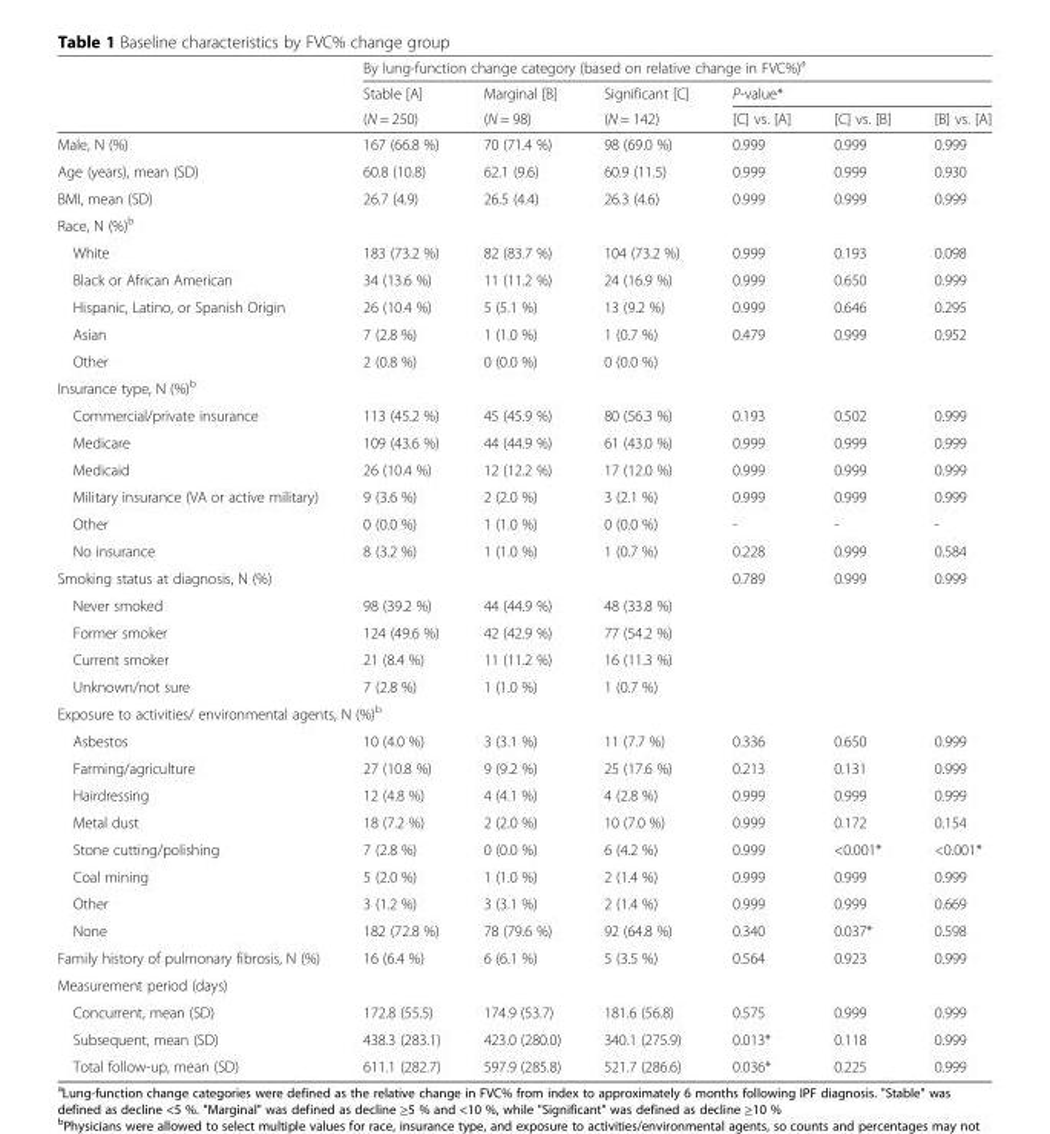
<table><thead><tr><td rowspan="3"></td><td colspan="6">By lung-function change category (based on relative change in FVC%)<sup>a</sup></td></tr><tr><td rowspan="2">Stable [A] (N = 250)</td><td rowspan="2">Marginal [B] (N = 98)</td><td rowspan="2">Significant [C] (N = 142)</td><td colspan="3">P-value*</td></tr><tr><td>[C] vs. [A]</td><td>[C] vs. [B]</td><td>[B] vs. [A]</td></tr></thead><tbody><tr><td>Male, N (%)</td><td>167 (66.8 %)</td><td>70 (71.4 %)</td><td>98 (69.0 %)</td><td>0.999</td><td>0.999</td><td>0.999</td></tr><tr><td>Age (years), mean (SD)</td><td>60.8 (10.8)</td><td>62.1 (9.6)</td><td>60.9 (11.5)</td><td>0.999</td><td>0.999</td><td>0.930</td></tr><tr><td>BMI, mean (SD)</td><td>26.7 (4.9)</td><td>26.5 (4.4)</td><td>26.3 (4.6)</td><td>0.999</td><td>0.999</td><td>0.999</td></tr><tr><td colspan="7">Race, N (%)<sup>b</sup></td></tr><tr><td>White</td><td>183 (73.2 %)</td><td>82 (83.7 %)</td><td>104 (73.2 %)</td><td>0.999</td><td>0.193</td><td>0.098</td></tr><tr><td>Black or African American</td><td>34 (13.6 %)</td><td>11 (11.2 %)</td><td>24 (16.9 %)</td><td>0.999</td><td>0.650</td><td>0.999</td></tr><tr><td>Hispanic, Latino, or Spanish Origin</td><td>26 (10.4 %)</td><td>5 (5.1 %)</td><td>13 (9.2 %)</td><td>0.999</td><td>0.646</td><td>0.295</td></tr><tr><td>Asian</td><td>7 (2.8 %)</td><td>1 (1.0 %)</td><td>1 (0.7 %)</td><td>0.479</td><td>0.999</td><td>0.952</td></tr><tr><td>Other</td><td>2 (0.8 %)</td><td>0 (0.0 %)</td><td>0 (0.0 %)</td><td></td><td></td><td></td></tr><tr><td colspan="7">Insurance type, N (%)<sup>b</sup></td></tr><tr><td>Commercial/private insurance</td><td>113 (45.2 %)</td><td>45 (45.9 %)</td><td>80 (56.3 %)</td><td>0.193</td><td>0.502</td><td>0.999</td></tr><tr><td>Medicare</td><td>109 (43.6 %)</td><td>44 (44.9 %)</td><td>61 (43.0 %)</td><td>0.999</td><td>0.999</td><td>0.999</td></tr><tr><td>Medicaid</td><td>26 (10.4 %)</td><td>12 (12.2 %)</td><td>17 (12.0 %)</td><td>0.999</td><td>0.999</td><td>0.999</td></tr><tr><td>Military insurance (VA or active military)</td><td>9 (3.6 %)</td><td>2 (2.0 %)</td><td>3 (2.1 %)</td><td>0.999</td><td>0.999</td><td>0.999</td></tr><tr><td>Other</td><td>0 (0.0 %)</td><td>1 (1.0 %)</td><td>0 (0.0 %)</td><td>-</td><td>-</td><td>-</td></tr><tr><td>No insurance</td><td>8 (3.2 %)</td><td>1 (1.0 %)</td><td>1 (0.7 %)</td><td>0.228</td><td>0.999</td><td>0.584</td></tr><tr><td>Smoking status at diagnosis, N (%)</td><td></td><td></td><td></td><td>0.789</td><td>0.999</td><td>0.999</td></tr><tr><td>Never smoked</td><td>98 (39.2 %)</td><td>44 (44.9 %)</td><td>48 (33.8 %)</td><td></td><td></td><td></td></tr><tr><td>Former smoker</td><td>124 (49.6 %)</td><td>42 (42.9 %)</td><td>77 (54.2 %)</td><td></td><td></td><td></td></tr><tr><td>Current smoker</td><td>21 (8.4 %)</td><td>11 (11.2 %)</td><td>16 (11.3 %)</td><td></td><td></td><td></td></tr><tr><td>Unknown/not sure</td><td>7 (2.8 %)</td><td>1 (1.0 %)</td><td>1 (0.7 %)</td><td></td><td></td><td></td></tr><tr><td colspan="7">Exposure to activities/ environmental agents, N (%)<sup>b</sup></td></tr><tr><td>Asbestos</td><td>10 (4.0 %)</td><td>3 (3.1 %)</td><td>11 (7.7 %)</td><td>0.336</td><td>0.650</td><td>0.999</td></tr><tr><td>Farming/agriculture</td><td>27 (10.8 %)</td><td>9 (9.2 %)</td><td>25 (17.6 %)</td><td>0.213</td><td>0.131</td><td>0.999</td></tr><tr><td>Hairdressing</td><td>12 (4.8 %)</td><td>4 (4.1 %)</td><td>4 (2.8 %)</td><td>0.999</td><td>0.999</td><td>0.999</td></tr><tr><td>Metal dust</td><td>18 (7.2 %)</td><td>2 (2.0 %)</td><td>10 (7.0 %)</td><td>0.999</td><td>0.172</td><td>0.154</td></tr><tr><td>Stone cutting/polishing</td><td>7 (2.8 %)</td><td>0 (0.0 %)</td><td>6 (4.2 %)</td><td>0.999</td><td>&lt;0.001*</td><td>&lt;0.001*</td></tr><tr><td>Coal mining</td><td>5 (2.0 %)</td><td>1 (1.0 %)</td><td>2 (1.4 %)</td><td>0.999</td><td>0.999</td><td>0.999</td></tr><tr><td>Other</td><td>3 (1.2 %)</td><td>3 (3.1 %)</td><td>2 (1.4 %)</td><td>0.999</td><td>0.999</td><td>0.669</td></tr><tr><td>None</td><td>182 (72.8 %)</td><td>78 (79.6 %)</td><td>92 (64.8 %)</td><td>0.340</td><td>0.037*</td><td>0.598</td></tr><tr><td>Family history of pulmonary fibrosis, N (%)</td><td>16 (6.4 %)</td><td>6 (6.1 %)</td><td>5 (3.5 %)</td><td>0.564</td><td>0.923</td><td>0.999</td></tr><tr><td colspan="7">Measurement period (days)</td></tr><tr><td>Concurrent, mean (SD)</td><td>172.8 (55.5)</td><td>174.9 (53.7)</td><td>181.6 (56.8)</td><td>0.575</td><td>0.999</td><td>0.999</td></tr><tr><td>Subsequent, mean (SD)</td><td>438.3 (283.1)</td><td>423.0 (280.0)</td><td>340.1 (275.9)</td><td>0.013*</td><td>0.118</td><td>0.999</td></tr><tr><td>Total follow-up, mean (SD)</td><td>611.1 (282.7)</td><td>597.9 (285.8)</td><td>521.7 (286.6)</td><td>0.036*</td><td>0.225</td><td>0.999</td></tr></tbody></table>